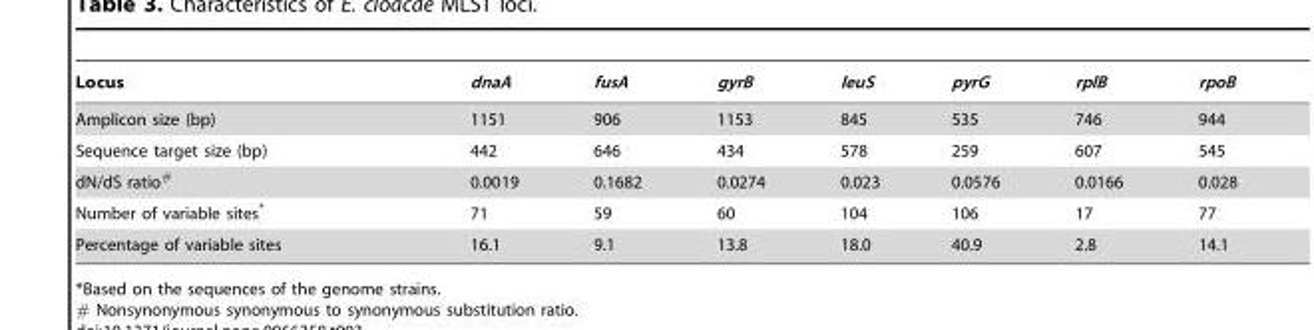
<table><thead><tr><td>Locus</td><td>dnaA</td><td>fusA</td><td>gyrB</td><td>leuS</td><td>pyrG</td><td>rplB</td><td>rpoB</td></tr></thead><tbody><tr><td>Amplicon size (bp)</td><td>1151</td><td>906</td><td>1153</td><td>845</td><td>535</td><td>746</td><td>944</td></tr><tr><td>Sequence target size (bp)</td><td>442</td><td>646</td><td>434</td><td>578</td><td>259</td><td>607</td><td>545</td></tr><tr><td>dN/dS ratio<sup>#</sup></td><td>0.0019</td><td>0.1682</td><td>0.0274</td><td>0.023</td><td>0.0576</td><td>0.0166</td><td>0.028</td></tr><tr><td>Number of variable sites*</td><td>71</td><td>59</td><td>60</td><td>104</td><td>106</td><td>17</td><td>77</td></tr><tr><td>Percentage of variable sites</td><td>16.1</td><td>9.1</td><td>13.8</td><td>18.0</td><td>40.9</td><td>2.8</td><td>14.1</td></tr></tbody></table>